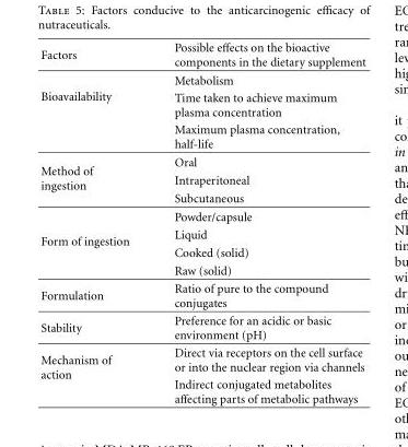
<table><thead><tr><td>Factors</td><td>Possible effects on the bioactive components in the dietary supplement</td></tr></thead><tbody><tr><td rowspan="3">Bioavailability</td><td>Metabolism</td></tr><tr><td>Time taken to achieve maximum plasma concentration</td></tr><tr><td>Maximum plasma concentration, half-life</td></tr><tr><td rowspan="3">Method of ingestion</td><td>Oral</td></tr><tr><td>Intraperitoneal</td></tr><tr><td>Subcutaneous</td></tr><tr><td rowspan="4">Form of ingestion</td><td>Powder/capsule</td></tr><tr><td>Liquid</td></tr><tr><td>Cooked (solid)</td></tr><tr><td>Raw (solid)</td></tr><tr><td>Formulation</td><td>Ratio of pure to the compound conjugates</td></tr><tr><td>Stability</td><td>Preference for an acidic or basic environment (pH)</td></tr><tr><td rowspan="2">Mechanism of action</td><td>Direct via receptors on the cell surface or into the nuclear region via channels</td></tr><tr><td>Indirect conjugated metabolites affecting parts of metabolic pathways</td></tr></tbody></table>